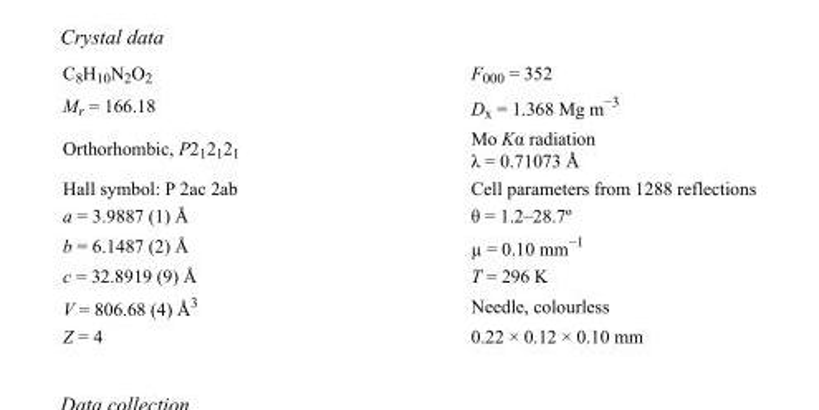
<table><tbody><tr><td>C<sub>8</sub>H<sub>10</sub>N<sub>2</sub>O<sub>2</sub></td><td>F000 = 352</td></tr><tr><td>M<sub>r</sub> = 166.18</td><td>D<sub>x</sub> = 1.368 Mg m<sup>−3</sup></td></tr><tr><td>Orthorhombic, P2<sub>1</sub>2<sub>1</sub>2<sub>1</sub></td><td>Mo Kα radiation λ = 0.71073 Å</td></tr><tr><td>Hall symbol: P 2ac 2ab</td><td>Cell parameters from 1288 reflections</td></tr><tr><td>a = 3.9887 (1) Å</td><td>θ = 1.2–28.7º</td></tr><tr><td>b = 6.1487 (2) Å</td><td>µ = 0.10 mm<sup>−1</sup></td></tr><tr><td>c = 32.8919 (9) Å</td><td>T = 296 K</td></tr><tr><td>V = 806.68 (4) Å<sup>3</sup></td><td>Needle, colourless</td></tr><tr><td>Z = 4</td><td>0.22 × 0.12 × 0.10 mm</td></tr></tbody></table>